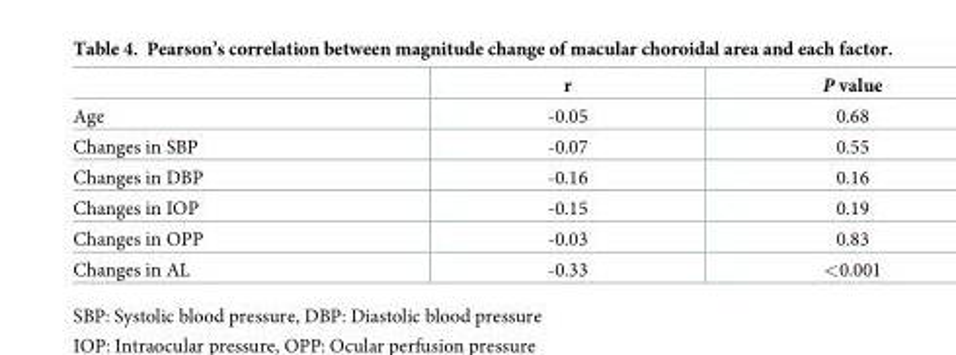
<table><thead><tr><td></td><td>r</td><td>P value</td></tr></thead><tbody><tr><td>Age</td><td>-0.05</td><td>0.68</td></tr><tr><td>Changes in SBP</td><td>-0.07</td><td>0.55</td></tr><tr><td>Changes in DBP</td><td>-0.16</td><td>0.16</td></tr><tr><td>Changes in IOP</td><td>-0.15</td><td>0.19</td></tr><tr><td>Changes in OPP</td><td>-0.03</td><td>0.83</td></tr><tr><td>Changes in AL</td><td>-0.33</td><td>&lt;0.001</td></tr></tbody></table>